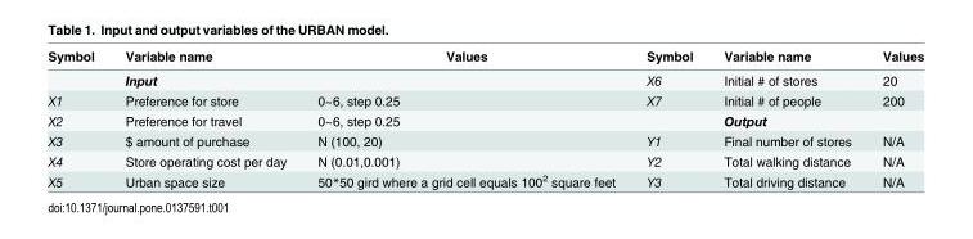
<table><thead><tr><td>Symbol</td><td>Variable name</td><td>Values</td><td>Symbol</td><td>Variable name</td><td>Values</td></tr></thead><tbody><tr><td></td><td>Input</td><td></td><td>X6</td><td>Initial # of stores</td><td>20</td></tr><tr><td>X1</td><td>Preference for store</td><td>0~6, step 0.25</td><td>X7</td><td>Initial # of people</td><td>200</td></tr><tr><td>X2</td><td>Preference for travel</td><td>0~6, step 0.25</td><td></td><td>Output</td><td></td></tr><tr><td>X3</td><td>$ amount of purchase</td><td>N (100, 20)</td><td>Y1</td><td>Final number of stores</td><td>N/A</td></tr><tr><td>X4</td><td>Store operating cost per day</td><td>N (0.01,0.001)</td><td>Y2</td><td>Total walking distance</td><td>N/A</td></tr><tr><td>X5</td><td>Urban space size</td><td>50*50 gird where a grid cell equals 100<sup>2</sup> square feet</td><td>Y3</td><td>Total driving distance</td><td>N/A</td></tr></tbody></table>